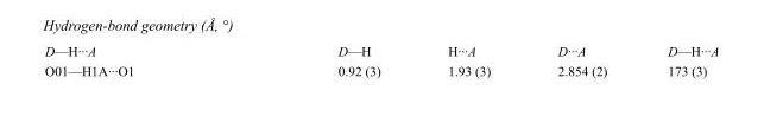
<table><tbody><tr><td>D—H···A</td><td>D—H</td><td>H···A</td><td>D···A</td><td>D—H···A</td></tr><tr><td>O01—H1A···O1</td><td>0.92 (3)</td><td>1.93 (3)</td><td>2.854 (2)</td><td>173 (3)</td></tr></tbody></table>